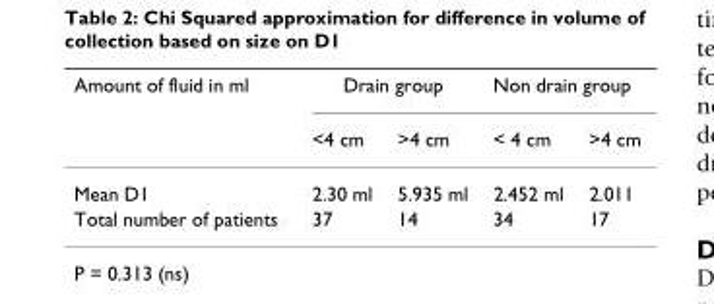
<table><thead><tr><td rowspan="2">Amount of fluid in ml</td><td colspan="2">Drain group</td><td colspan="2">Non drain group</td></tr><tr><td>&lt;4 cm</td><td>&gt;4 cm</td><td>&lt; 4 cm</td><td>&gt;4 cm</td></tr></thead><tbody><tr><td>Mean D1</td><td>2.30 ml</td><td>5.935 ml</td><td>2.452 ml</td><td>2.011</td></tr><tr><td>Total number of patients</td><td>37</td><td>14</td><td>34</td><td>17</td></tr></tbody></table>